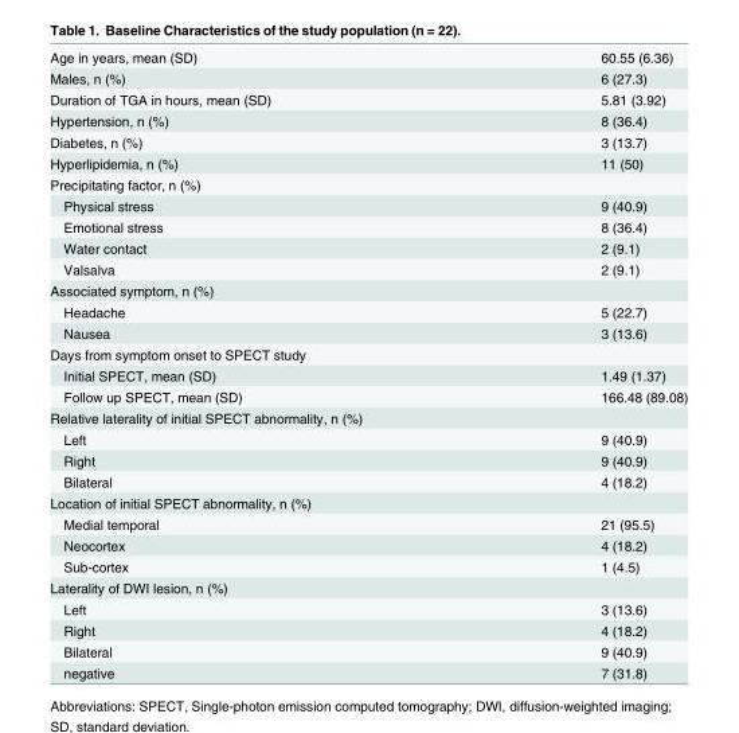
<table><tbody><tr><td>Age in years, mean (SD)</td><td>60.55 (6.36)</td></tr><tr><td>Males, n (%)</td><td>6 (27.3)</td></tr><tr><td>Duration of TGA in hours, mean (SD)</td><td>5.81 (3.92)</td></tr><tr><td>Hypertension, n (%)</td><td>8 (36.4)</td></tr><tr><td>Diabetes, n (%)</td><td>3 (13.7)</td></tr><tr><td>Hyperlipidemia, n (%)</td><td>11 (50)</td></tr><tr><td colspan="2">Precipitating factor, n (%)</td></tr><tr><td>Physical stress</td><td>9 (40.9)</td></tr><tr><td>Emotional stress</td><td>8 (36.4)</td></tr><tr><td>Water contact</td><td>2 (9.1)</td></tr><tr><td>Valsalva</td><td>2 (9.1)</td></tr><tr><td colspan="2">Associated symptom, n (%)</td></tr><tr><td>Headache</td><td>5 (22.7)</td></tr><tr><td>Nausea</td><td>3 (13.6)</td></tr><tr><td colspan="2">Days from symptom onset to SPECT study</td></tr><tr><td>Initial SPECT, mean (SD)</td><td>1.49 (1.37)</td></tr><tr><td>Follow up SPECT, mean (SD)</td><td>166.48 (89.08)</td></tr><tr><td colspan="2">Relative laterality of initial SPECT abnormality, n (%)</td></tr><tr><td>Left</td><td>9 (40.9)</td></tr><tr><td>Right</td><td>9 (40.9)</td></tr><tr><td>Bilateral</td><td>4 (18.2)</td></tr><tr><td colspan="2">Location of initial SPECT abnormality, n (%)</td></tr><tr><td>Medial temporal</td><td>21 (95.5)</td></tr><tr><td>Neocortex</td><td>4 (18.2)</td></tr><tr><td>Sub-cortex</td><td>1 (4.5)</td></tr><tr><td colspan="2">Laterality of DWI lesion, n (%)</td></tr><tr><td>Left</td><td>3 (13.6)</td></tr><tr><td>Right</td><td>4 (18.2)</td></tr><tr><td>Bilateral</td><td>9 (40.9)</td></tr><tr><td>negative</td><td>7 (31.8)</td></tr></tbody></table>